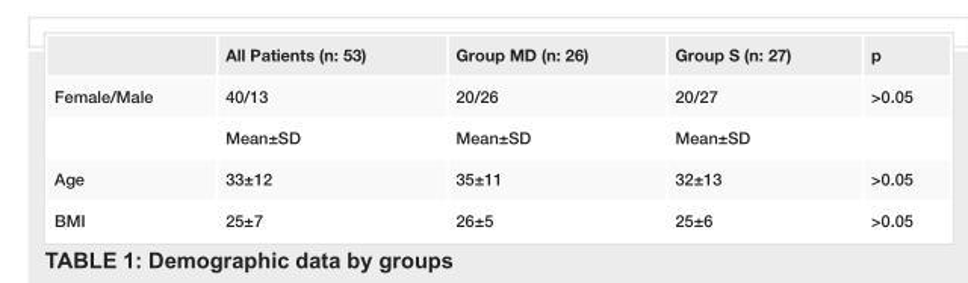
<table><thead><tr><td></td><td>All Patients (n: 53)</td><td>Group MD (n: 26)</td><td>Group S (n: 27)</td><td>p</td></tr></thead><tbody><tr><td rowspan="2">Female/Male</td><td>40/13</td><td>20/26</td><td>20/27</td><td>&gt;0.05</td></tr><tr><td>Mean±SD</td><td>Mean±SD</td><td>Mean±SD</td><td></td></tr><tr><td>Age</td><td>33±12</td><td>35±11</td><td>32±13</td><td>&gt;0.05</td></tr><tr><td>BMI</td><td>25±7</td><td>26±5</td><td>25±6</td><td>&gt;0.05</td></tr></tbody></table>